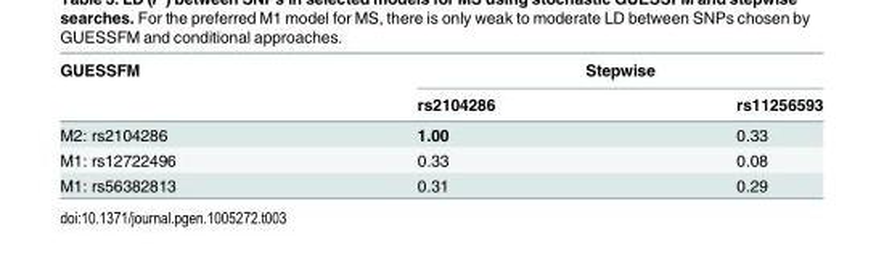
<table><thead><tr><td rowspan="2">GUESSFM</td><td colspan="2">Stepwise</td></tr><tr><td>rs2104286</td><td>rs11256593</td></tr></thead><tbody><tr><td>M2: rs2104286</td><td>1.00</td><td>0.33</td></tr><tr><td>M1: rs12722496</td><td>0.33</td><td>0.08</td></tr><tr><td>M1: rs56382813</td><td>0.31</td><td>0.29</td></tr></tbody></table>